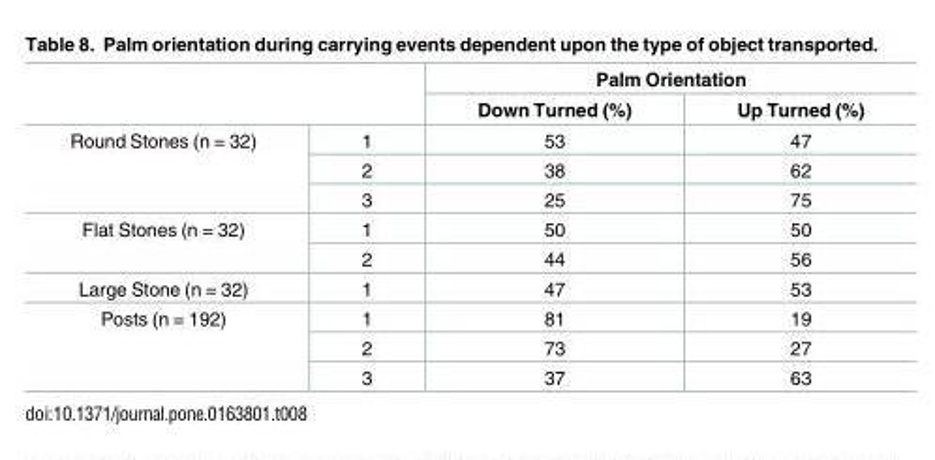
<table><thead><tr><td rowspan="2"></td><td rowspan="2"></td><td colspan="2">Palm Orientation</td></tr><tr><td>Down Turned (%)</td><td>Up Turned (%)</td></tr></thead><tbody><tr><td rowspan="3">Round Stones (n = 32)</td><td>1</td><td>53</td><td>47</td></tr><tr><td>2</td><td>38</td><td>62</td></tr><tr><td>3</td><td>25</td><td>75</td></tr><tr><td rowspan="2">Flat Stones (n = 32)</td><td>1</td><td>50</td><td>50</td></tr><tr><td>2</td><td>44</td><td>56</td></tr><tr><td>Large Stone (n = 32)</td><td>1</td><td>47</td><td>53</td></tr><tr><td rowspan="3">Posts (n = 192)</td><td>1</td><td>81</td><td>19</td></tr><tr><td>2</td><td>73</td><td>27</td></tr><tr><td>3</td><td>37</td><td>63</td></tr></tbody></table>